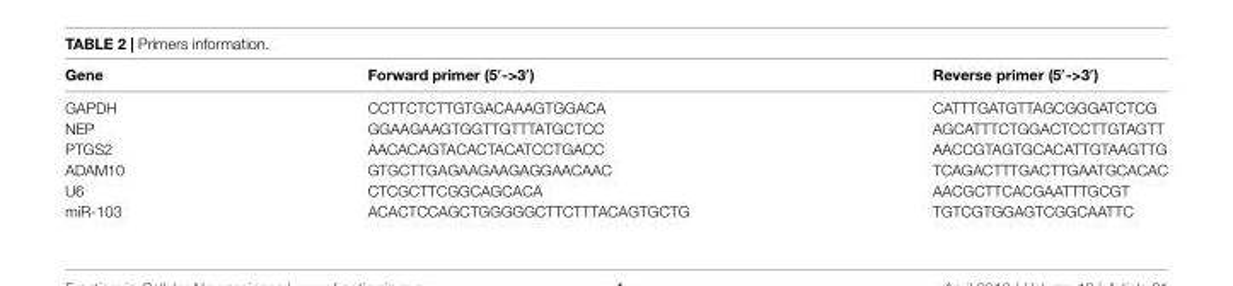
<table><thead><tr><td>Gene</td><td>Forward primer (5′-&gt;3′)</td><td>Reverse primer (5′-&gt;3′)</td></tr></thead><tbody><tr><td>GAPDH</td><td>CCTTCTCTTGTGACAAAGTGGACA</td><td>CATTTGATGTTAGCGGGATCTCG</td></tr><tr><td>NEP</td><td>GGAAGAAGTGGTTGTTTATGCTCC</td><td>AGCATTTCTGGACTCCTTGTAGTT</td></tr><tr><td>PTGS2</td><td>AACACAGTACACTACATCCTGACC</td><td>AACCGTAGTGCACATTGTAAGTTG</td></tr><tr><td>ADAM10</td><td>GTGCTTGAGAAGAAGAGGAACAAC</td><td>TCAGACTTTGACTTGAATGCACAC</td></tr><tr><td>U6</td><td>CTCGCTTCGGCAGCACA</td><td>AACGCTTCACGAATTTGCGT</td></tr><tr><td>miR-103</td><td>ACACTCCAGCTGGGGGCTTCTTTACAGTGCTG</td><td>TGTCGTGGAGTCGGCAATTC</td></tr></tbody></table>